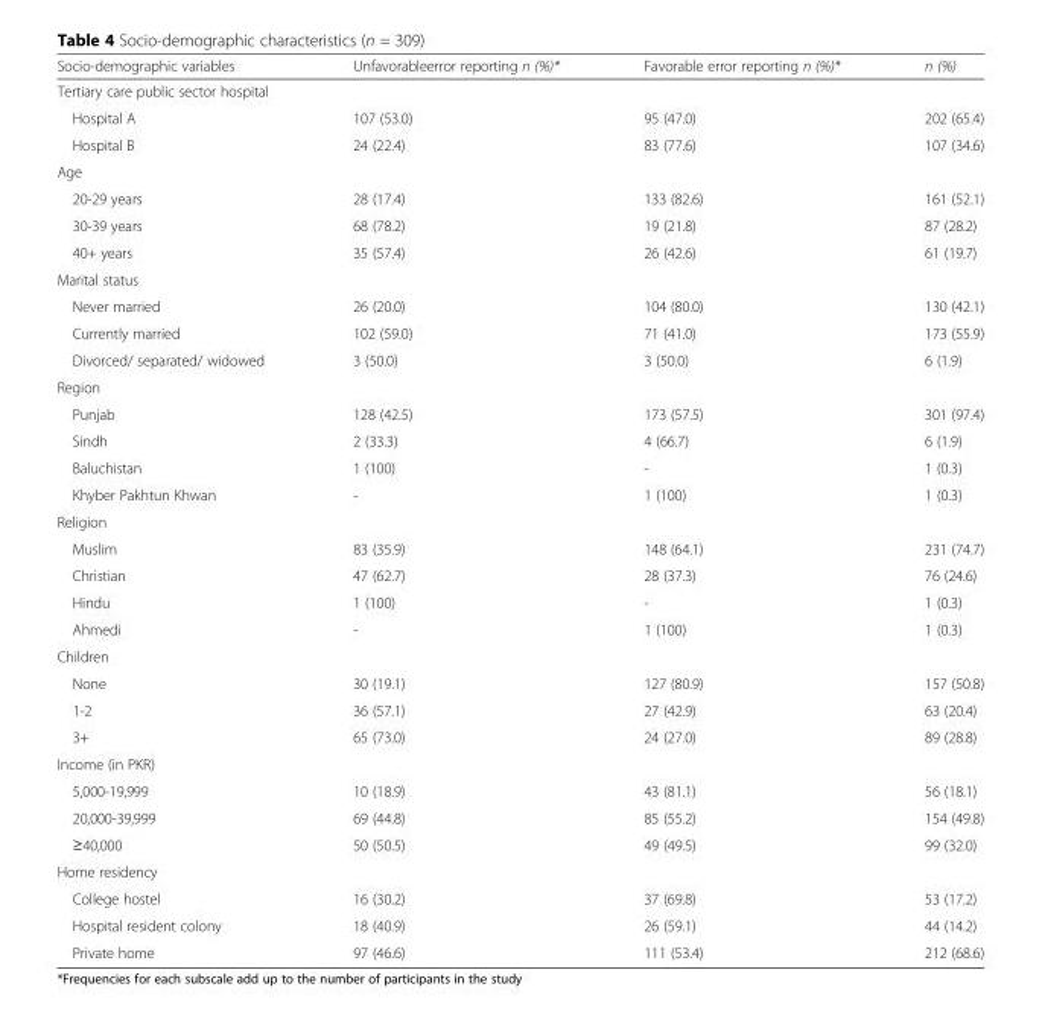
<table><thead><tr><td>Socio-demographic variables</td><td>Unfavorableerror reporting n (%)*</td><td>Favorable error reporting n (%)*</td><td>n (%)</td></tr></thead><tbody><tr><td colspan="4">Tertiary care public sector hospital</td></tr><tr><td>Hospital A</td><td>107 (53.0)</td><td>95 (47.0)</td><td>202 (65.4)</td></tr><tr><td>Hospital B</td><td>24 (22.4)</td><td>83 (77.6)</td><td>107 (34.6)</td></tr><tr><td colspan="4">Age</td></tr><tr><td>20-29 years</td><td>28 (17.4)</td><td>133 (82.6)</td><td>161 (52.1)</td></tr><tr><td>30-39 years</td><td>68 (78.2)</td><td>19 (21.8)</td><td>87 (28.2)</td></tr><tr><td>40+ years</td><td>35 (57.4)</td><td>26 (42.6)</td><td>61 (19.7)</td></tr><tr><td colspan="4">Marital status</td></tr><tr><td>Never married</td><td>26 (20.0)</td><td>104 (80.0)</td><td>130 (42.1)</td></tr><tr><td>Currently married</td><td>102 (59.0)</td><td>71 (41.0)</td><td>173 (55.9)</td></tr><tr><td>Divorced/ separated/ widowed</td><td>3 (50.0)</td><td>3 (50.0)</td><td>6 (1.9)</td></tr><tr><td colspan="4">Region</td></tr><tr><td>Punjab</td><td>128 (42.5)</td><td>173 (57.5)</td><td>301 (97.4)</td></tr><tr><td>Sindh</td><td>2 (33.3)</td><td>4 (66.7)</td><td>6 (1.9)</td></tr><tr><td>Baluchistan</td><td>1 (100)</td><td>-</td><td>1 (0.3)</td></tr><tr><td>Khyber Pakhtun Khwan</td><td>-</td><td>1 (100)</td><td>1 (0.3)</td></tr><tr><td colspan="4">Religion</td></tr><tr><td>Muslim</td><td>83 (35.9)</td><td>148 (64.1)</td><td>231 (74.7)</td></tr><tr><td>Christian</td><td>47 (62.7)</td><td>28 (37.3)</td><td>76 (24.6)</td></tr><tr><td>Hindu</td><td>1 (100)</td><td>-</td><td>1 (0.3)</td></tr><tr><td>Ahmedi</td><td>-</td><td>1 (100)</td><td>1 (0.3)</td></tr><tr><td colspan="4">Children</td></tr><tr><td>None</td><td>30 (19.1)</td><td>127 (80.9)</td><td>157 (50.8)</td></tr><tr><td>1-2</td><td>36 (57.1)</td><td>27 (42.9)</td><td>63 (20.4)</td></tr><tr><td>3+</td><td>65 (73.0)</td><td>24 (27.0)</td><td>89 (28.8)</td></tr><tr><td colspan="4">Income (in PKR)</td></tr><tr><td>5,000-19,999</td><td>10 (18.9)</td><td>43 (81.1)</td><td>56 (18.1)</td></tr><tr><td>20,000-39,999</td><td>69 (44.8)</td><td>85 (55.2)</td><td>154 (49.8)</td></tr><tr><td>≥40,000</td><td>50 (50.5)</td><td>49 (49.5)</td><td>99 (32.0)</td></tr><tr><td colspan="4">Home residency</td></tr><tr><td>College hostel</td><td>16 (30.2)</td><td>37 (69.8)</td><td>53 (17.2)</td></tr><tr><td>Hospital resident colony</td><td>18 (40.9)</td><td>26 (59.1)</td><td>44 (14.2)</td></tr><tr><td>Private home</td><td>97 (46.6)</td><td>111 (53.4)</td><td>212 (68.6)</td></tr></tbody></table>